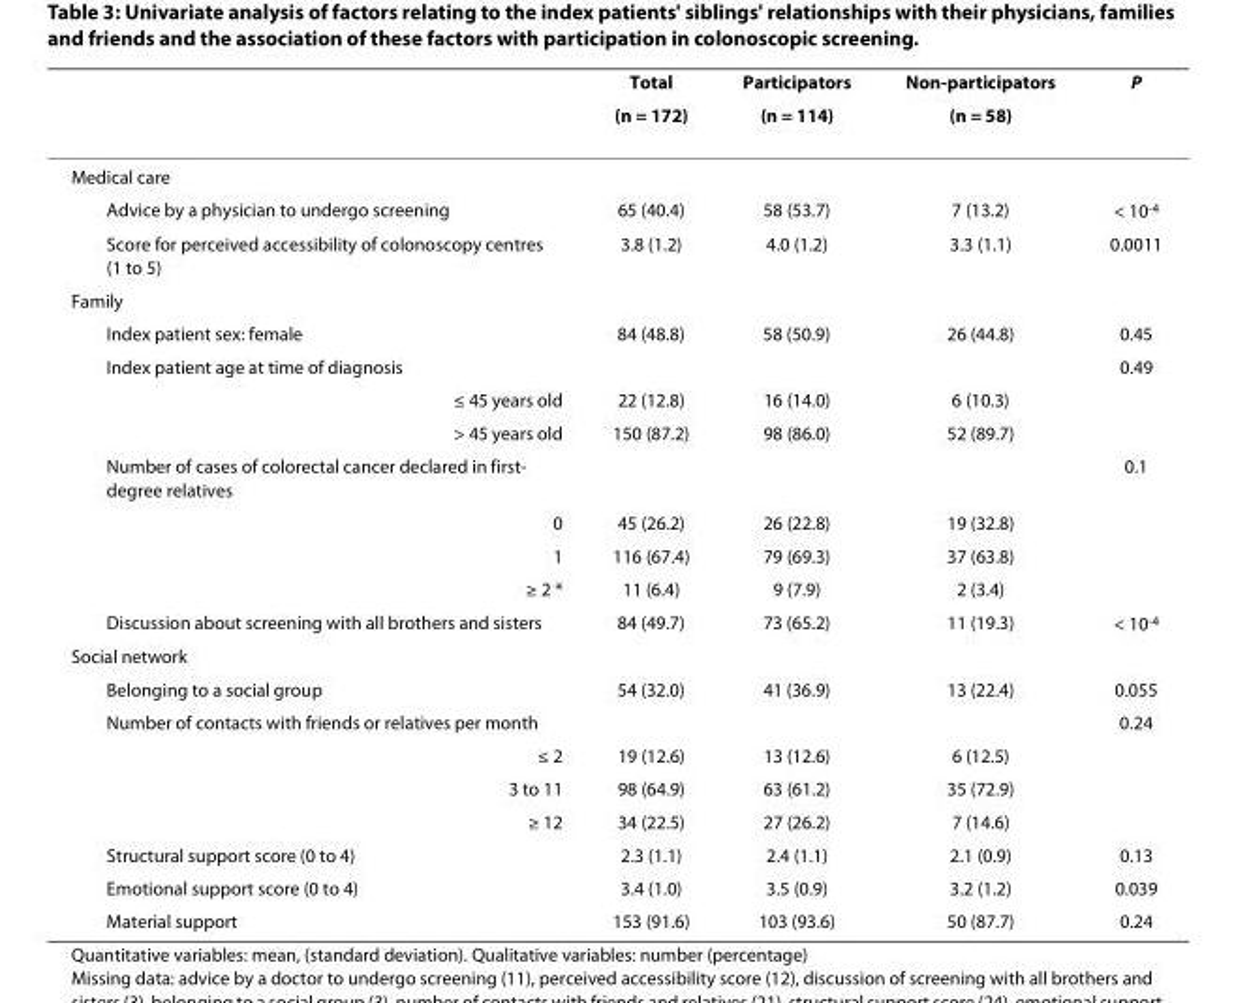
<table><thead><tr><td rowspan="2"></td><td rowspan="2">Total (n = 172)</td><td rowspan="2">Participators (n = 114)</td><td rowspan="2">Non-participators (n = 58)</td><td rowspan="2">P</td></tr><tr></tr></thead><tbody><tr><td colspan="5">Medical care</td></tr><tr><td>Advice by a physician to undergo screening</td><td>65 (40.4)</td><td>58 (53.7)</td><td>7 (13.2)</td><td>&lt; 10<sup>-4</sup></td></tr><tr><td>Score for perceived accessibility of colonoscopy centres (1 to 5)</td><td>3.8 (1.2)</td><td>4.0 (1.2)</td><td>3.3 (1.1)</td><td>0.0011</td></tr><tr><td colspan="5">Family</td></tr><tr><td>Index patient sex: female</td><td>84 (48.8)</td><td>58 (50.9)</td><td>26 (44.8)</td><td>0.45</td></tr><tr><td>Index patient age at time of diagnosis</td><td></td><td></td><td></td><td>0.49</td></tr><tr><td>≤ 45 years old</td><td>22 (12.8)</td><td>16 (14.0)</td><td>6 (10.3)</td><td></td></tr><tr><td>&gt; 45 years old</td><td>150 (87.2)</td><td>98 (86.0)</td><td>52 (89.7)</td><td></td></tr><tr><td>Number of cases of colorectal cancer declared in first- degree relatives</td><td></td><td></td><td></td><td>0.1</td></tr><tr><td>0</td><td>45 (26.2)</td><td>26 (22.8)</td><td>19 (32.8)</td><td></td></tr><tr><td>1</td><td>116 (67.4)</td><td>79 (69.3)</td><td>37 (63.8)</td><td></td></tr><tr><td>≥ 2 *</td><td>11 (6.4)</td><td>9 (7.9)</td><td>2 (3.4)</td><td></td></tr><tr><td>Discussion about screening with all brothers and sisters</td><td>84 (49.7)</td><td>73 (65.2)</td><td>11 (19.3)</td><td>&lt; 10<sup>-4</sup></td></tr><tr><td colspan="5">Social network</td></tr><tr><td>Belonging to a social group</td><td>54 (32.0)</td><td>41 (36.9)</td><td>13 (22.4)</td><td>0.055</td></tr><tr><td>Number of contacts with friends or relatives per month</td><td></td><td></td><td></td><td>0.24</td></tr><tr><td>≤ 2</td><td>19 (12.6)</td><td>13 (12.6)</td><td>6 (12.5)</td><td></td></tr><tr><td>3 to 11</td><td>98 (64.9)</td><td>63 (61.2)</td><td>35 (72.9)</td><td></td></tr><tr><td>≥ 12</td><td>34 (22.5)</td><td>27 (26.2)</td><td>7 (14.6)</td><td></td></tr><tr><td>Structural support score (0 to 4)</td><td>2.3 (1.1)</td><td>2.4 (1.1)</td><td>2.1 (0.9)</td><td>0.13</td></tr><tr><td>Emotional support score (0 to 4)</td><td>3.4 (1.0)</td><td>3.5 (0.9)</td><td>3.2 (1.2)</td><td>0.039</td></tr><tr><td>Material support</td><td>153 (91.6)</td><td>103 (93.6)</td><td>50 (87.7)</td><td>0.24</td></tr></tbody></table>